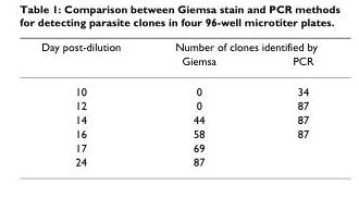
<table><thead><tr><td rowspan="2">Day post-dilution</td><td colspan="2">Number of clones identified by</td></tr><tr><td>Giemsa</td><td>PCR</td></tr></thead><tbody><tr><td>10</td><td>0</td><td>34</td></tr><tr><td>12</td><td>0</td><td>87</td></tr><tr><td>14</td><td>44</td><td>87</td></tr><tr><td>16</td><td>58</td><td>87</td></tr><tr><td>17</td><td>69</td><td></td></tr><tr><td>24</td><td>87</td><td></td></tr></tbody></table>